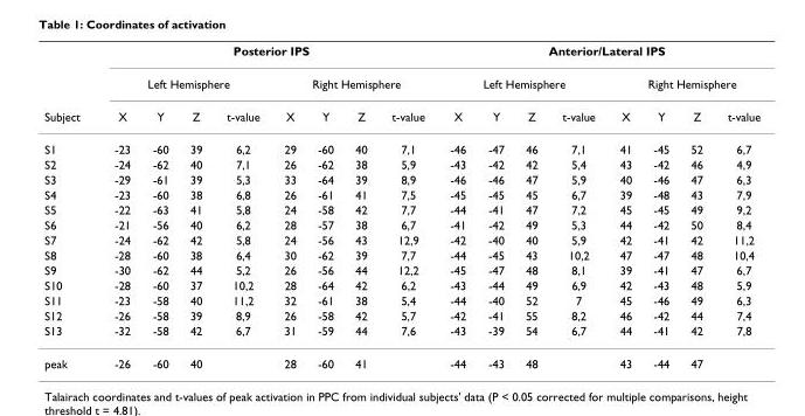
<table><thead><tr><td rowspan="3">Subject</td><td colspan="8">Posterior IPS</td><td colspan="8">Anterior/Lateral IPS</td></tr><tr><td colspan="4">Left Hemisphere</td><td colspan="4">Right Hemisphere</td><td colspan="4">Left Hemisphere</td><td colspan="4">Right Hemisphere</td></tr><tr><td>X</td><td>Y</td><td>Z</td><td>t-value</td><td>X</td><td>Y</td><td>Z</td><td>t-value</td><td>X</td><td>Y</td><td>Z</td><td>t-value</td><td>X</td><td>Y</td><td>Z</td><td>t-value</td></tr></thead><tbody><tr><td>S1</td><td>-23</td><td>-60</td><td>39</td><td>6,2</td><td>29</td><td>-60</td><td>40</td><td>7,1</td><td>-46</td><td>-47</td><td>46</td><td>7,1</td><td>41</td><td>-45</td><td>52</td><td>6,7</td></tr><tr><td>S2</td><td>-24</td><td>-62</td><td>40</td><td>7,1</td><td>26</td><td>-62</td><td>38</td><td>5,9</td><td>-43</td><td>-42</td><td>42</td><td>5,4</td><td>43</td><td>-42</td><td>46</td><td>4,9</td></tr><tr><td>S3</td><td>-29</td><td>-61</td><td>39</td><td>5,3</td><td>33</td><td>-64</td><td>39</td><td>8,9</td><td>-46</td><td>-46</td><td>47</td><td>5,9</td><td>40</td><td>-46</td><td>47</td><td>6,3</td></tr><tr><td>S4</td><td>-23</td><td>-60</td><td>38</td><td>6,8</td><td>26</td><td>-61</td><td>41</td><td>7,5</td><td>-45</td><td>-45</td><td>45</td><td>6,7</td><td>39</td><td>-48</td><td>43</td><td>7,9</td></tr><tr><td>S5</td><td>-22</td><td>-63</td><td>41</td><td>5,8</td><td>24</td><td>-58</td><td>42</td><td>7,7</td><td>-44</td><td>-41</td><td>47</td><td>7,2</td><td>45</td><td>-45</td><td>49</td><td>9,2</td></tr><tr><td>S6</td><td>-21</td><td>-56</td><td>40</td><td>6,2</td><td>28</td><td>-57</td><td>38</td><td>6,7</td><td>-41</td><td>-42</td><td>49</td><td>5,3</td><td>44</td><td>-42</td><td>50</td><td>8,4</td></tr><tr><td>S7</td><td>-24</td><td>-62</td><td>42</td><td>5,8</td><td>24</td><td>-56</td><td>43</td><td>12,9</td><td>-42</td><td>-40</td><td>40</td><td>5,9</td><td>42</td><td>-41</td><td>42</td><td>11,2</td></tr><tr><td>S8</td><td>-28</td><td>-60</td><td>38</td><td>6,4</td><td>30</td><td>-62</td><td>39</td><td>7,7</td><td>-44</td><td>-45</td><td>43</td><td>10,2</td><td>47</td><td>-47</td><td>48</td><td>10,4</td></tr><tr><td>S9</td><td>-30</td><td>-62</td><td>44</td><td>5,2</td><td>26</td><td>-56</td><td>44</td><td>12,2</td><td>-45</td><td>-47</td><td>48</td><td>8,1</td><td>39</td><td>-41</td><td>47</td><td>6,7</td></tr><tr><td>S10</td><td>-28</td><td>-60</td><td>37</td><td>10,2</td><td>28</td><td>-64</td><td>42</td><td>6,2</td><td>-43</td><td>-44</td><td>49</td><td>6,9</td><td>42</td><td>-43</td><td>48</td><td>5,9</td></tr><tr><td>S11</td><td>-23</td><td>-58</td><td>40</td><td>11,2</td><td>32</td><td>-61</td><td>38</td><td>5,4</td><td>-44</td><td>-40</td><td>52</td><td>7</td><td>45</td><td>-46</td><td>49</td><td>6,3</td></tr><tr><td>S12</td><td>-26</td><td>-58</td><td>39</td><td>8,9</td><td>26</td><td>-58</td><td>42</td><td>5,7</td><td>-42</td><td>-41</td><td>55</td><td>8,2</td><td>46</td><td>-42</td><td>44</td><td>7,4</td></tr><tr><td>S13</td><td>-32</td><td>-58</td><td>42</td><td>6,7</td><td>31</td><td>-59</td><td>44</td><td>7,6</td><td>-43</td><td>-39</td><td>54</td><td>6,7</td><td>44</td><td>-41</td><td>42</td><td>7,8</td></tr><tr><td>peak</td><td>-26</td><td>-60</td><td>40</td><td></td><td>28</td><td>-60</td><td>41</td><td></td><td>-44</td><td>-43</td><td>48</td><td></td><td>43</td><td>-44</td><td>47</td><td></td></tr></tbody></table>